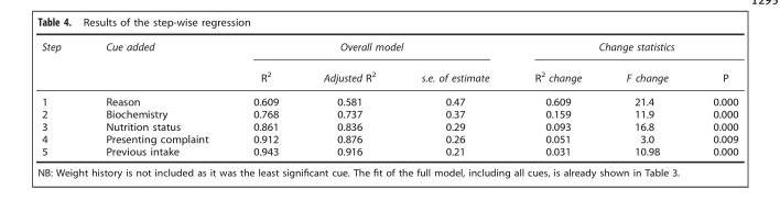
<table><thead><tr><td rowspan="2">Step</td><td rowspan="2">Cue added</td><td colspan="3">Overall model</td><td colspan="3">Change statistics</td></tr><tr><td>R<sup>2</sup></td><td>Adjusted R<sup>2</sup></td><td>s.e. of estimate</td><td>R<sup>2</sup> change</td><td>F change</td><td>P</td></tr></thead><tbody><tr><td>1</td><td>Reason</td><td>0.609</td><td>0.581</td><td>0.47</td><td>0.609</td><td>21.4</td><td>0.000</td></tr><tr><td>2</td><td>Biochemistry</td><td>0.768</td><td>0.737</td><td>0.37</td><td>0.159</td><td>11.9</td><td>0.000</td></tr><tr><td>3</td><td>Nutrition status</td><td>0.861</td><td>0.836</td><td>0.29</td><td>0.093</td><td>16.8</td><td>0.000</td></tr><tr><td>4</td><td>Presenting complaint</td><td>0.912</td><td>0.876</td><td>0.26</td><td>0.051</td><td>3.0</td><td>0.009</td></tr><tr><td>5</td><td>Previous intake</td><td>0.943</td><td>0.916</td><td>0.21</td><td>0.031</td><td>10.98</td><td>0.000</td></tr></tbody></table>